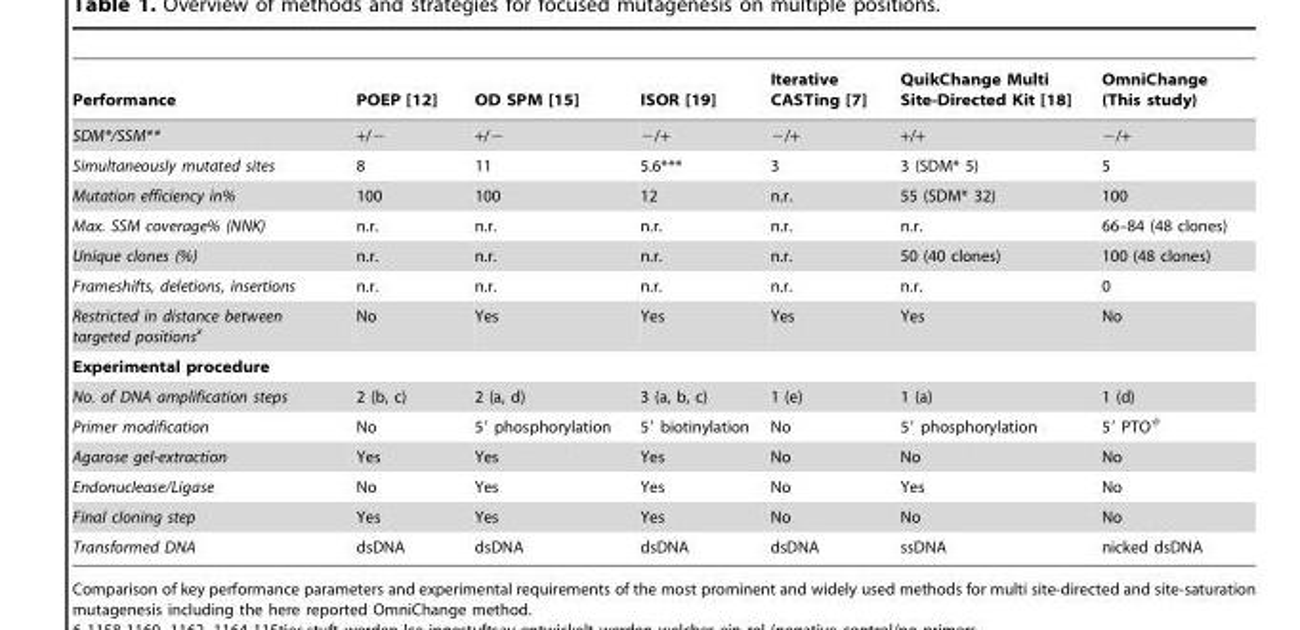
<table><thead><tr><td>Performance</td><td>POEP [12]</td><td>OD SPM [15]</td><td>ISOR [19]</td><td>Iterative CASTing [7]</td><td>QuikChange Multi Site-Directed Kit [18]</td><td>OmniChange (This study)</td></tr></thead><tbody><tr><td>SDM*/SSM**</td><td>+/−</td><td>+/−</td><td>−/+</td><td>−/+</td><td>+/+</td><td>−/+</td></tr><tr><td>Simultaneously mutated sites</td><td>8</td><td>11</td><td>5.6***</td><td>3</td><td>3 (SDM* 5)</td><td>5</td></tr><tr><td>Mutation efficiency in%</td><td>100</td><td>100</td><td>12</td><td>n.r.</td><td>55 (SDM* 32)</td><td>100</td></tr><tr><td>Max. SSM coverage% (NNK)</td><td>n.r.</td><td>n.r.</td><td>n.r.</td><td>n.r.</td><td>n.r.</td><td>66–84 (48 clones)</td></tr><tr><td>Unique clones (%)</td><td>n.r.</td><td>n.r.</td><td>n.r.</td><td>n.r.</td><td>50 (40 clones)</td><td>100 (48 clones)</td></tr><tr><td>Frameshifts, deletions, insertions</td><td>n.r.</td><td>n.r.</td><td>n.r.</td><td>n.r.</td><td>n.r.</td><td>0</td></tr><tr><td>Restricted in distance between targeted positionsx</td><td>No</td><td>Yes</td><td>Yes</td><td>Yes</td><td>Yes</td><td>No</td></tr><tr><td colspan="7">Experimental procedure</td></tr><tr><td>No. of DNA amplification steps</td><td>2 (b, c)</td><td>2 (a, d)</td><td>3 (a, b, c)</td><td>1 (e)</td><td>1 (a)</td><td>1 (d)</td></tr><tr><td>Primer modification</td><td>No</td><td>5′ phosphorylation</td><td>5′ biotinylation</td><td>No</td><td>5′ phosphorylation</td><td>5′ PTO#</td></tr><tr><td>Agarose gel-extraction</td><td>Yes</td><td>Yes</td><td>Yes</td><td>No</td><td>No</td><td>No</td></tr><tr><td>Endonuclease/Ligase</td><td>No</td><td>Yes</td><td>Yes</td><td>No</td><td>Yes</td><td>No</td></tr><tr><td>Final cloning step</td><td>Yes</td><td>Yes</td><td>Yes</td><td>No</td><td>No</td><td>No</td></tr><tr><td>Transformed DNA</td><td>dsDNA</td><td>dsDNA</td><td>dsDNA</td><td>dsDNA</td><td>ssDNA</td><td>nicked dsDNA</td></tr></tbody></table>